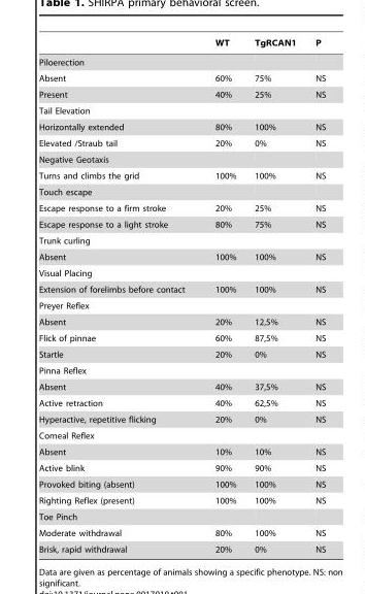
<table><thead><tr><td></td><td>WT</td><td>TgRCAN1</td><td>P</td></tr></thead><tbody><tr><td colspan="4">Piloerection</td></tr><tr><td>Absent</td><td>60%</td><td>75%</td><td>NS</td></tr><tr><td>Present</td><td>40%</td><td>25%</td><td>NS</td></tr><tr><td colspan="4">Tail Elevation</td></tr><tr><td>Horizontally extended</td><td>80%</td><td>100%</td><td>NS</td></tr><tr><td>Elevated /Straub tail</td><td>20%</td><td>0%</td><td>NS</td></tr><tr><td colspan="4">Negative Geotaxis</td></tr><tr><td>Turns and climbs the grid</td><td>100%</td><td>100%</td><td>NS</td></tr><tr><td colspan="4">Touch escape</td></tr><tr><td>Escape response to a firm stroke</td><td>20%</td><td>25%</td><td>NS</td></tr><tr><td>Escape response to a light stroke</td><td>80%</td><td>75%</td><td>NS</td></tr><tr><td colspan="4">Trunk curling</td></tr><tr><td>Absent</td><td>100%</td><td>100%</td><td>NS</td></tr><tr><td colspan="4">Visual Placing</td></tr><tr><td>Extension of forelimbs before contact</td><td>100%</td><td>100%</td><td>NS</td></tr><tr><td colspan="4">Preyer Reflex</td></tr><tr><td>Absent</td><td>20%</td><td>12,5%</td><td>NS</td></tr><tr><td>Flick of pinnae</td><td>60%</td><td>87,5%</td><td>NS</td></tr><tr><td>Startle</td><td>20%</td><td>0%</td><td>NS</td></tr><tr><td colspan="4">Pinna Reflex</td></tr><tr><td>Absent</td><td>40%</td><td>37,5%</td><td>NS</td></tr><tr><td>Active retraction</td><td>40%</td><td>62,5%</td><td>NS</td></tr><tr><td>Hyperactive, repetitive flicking</td><td>20%</td><td>0%</td><td>NS</td></tr><tr><td colspan="4">Corneal Reflex</td></tr><tr><td>Absent</td><td>10%</td><td>10%</td><td>NS</td></tr><tr><td>Active blink</td><td>90%</td><td>90%</td><td>NS</td></tr><tr><td>Provoked biting (absent)</td><td>100%</td><td>100%</td><td>NS</td></tr><tr><td>Righting Reflex (present)</td><td>100%</td><td>100%</td><td>NS</td></tr><tr><td colspan="4">Toe Pinch</td></tr><tr><td>Moderate withdrawal</td><td>80%</td><td>100%</td><td>NS</td></tr><tr><td>Brisk, rapid withdrawal</td><td>20%</td><td>0%</td><td>NS</td></tr></tbody></table>